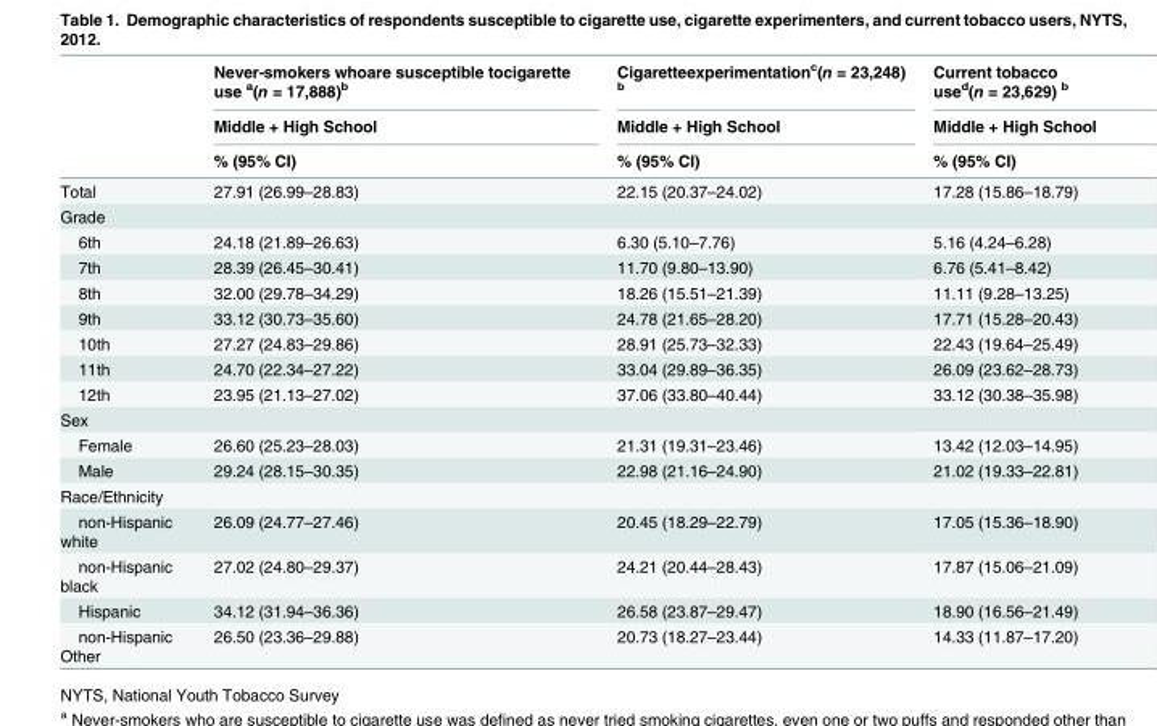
<table><thead><tr><td rowspan="3"></td><td rowspan="3">Never-smokers whoare susceptible tocigarette use <sup>a</sup>(n = 17,888)<sup>b</sup> Middle + High School % (95% CI)</td><td rowspan="3">Cigaretteexperimentation<sup>c</sup>(n = 23,248) <sup>b</sup> Middle + High School % (95% CI)</td><td rowspan="3">Current tobacco use<sup>d</sup>(n = 23,629) <sup>b</sup> Middle + High School % (95% CI)</td></tr><tr></tr><tr></tr></thead><tbody><tr><td>Total</td><td>27.91 (26.99–28.83)</td><td>22.15 (20.37–24.02)</td><td>17.28 (15.86–18.79)</td></tr><tr><td colspan="4">Grade</td></tr><tr><td>6th</td><td>24.18 (21.89–26.63)</td><td>6.30 (5.10–7.76)</td><td>5.16 (4.24–6.28)</td></tr><tr><td>7th</td><td>28.39 (26.45–30.41)</td><td>11.70 (9.80–13.90)</td><td>6.76 (5.41–8.42)</td></tr><tr><td>8th</td><td>32.00 (29.78–34.29)</td><td>18.26 (15.51–21.39)</td><td>11.11 (9.28–13.25)</td></tr><tr><td>9th</td><td>33.12 (30.73–35.60)</td><td>24.78 (21.65–28.20)</td><td>17.71 (15.28–20.43)</td></tr><tr><td>10th</td><td>27.27 (24.83–29.86)</td><td>28.91 (25.73–32.33)</td><td>22.43 (19.64–25.49)</td></tr><tr><td>11th</td><td>24.70 (22.34–27.22)</td><td>33.04 (29.89–36.35)</td><td>26.09 (23.62–28.73)</td></tr><tr><td>12th</td><td>23.95 (21.13–27.02)</td><td>37.06 (33.80–40.44)</td><td>33.12 (30.38–35.98)</td></tr><tr><td colspan="4">Sex</td></tr><tr><td>Female</td><td>26.60 (25.23–28.03)</td><td>21.31 (19.31–23.46)</td><td>13.42 (12.03–14.95)</td></tr><tr><td>Male</td><td>29.24 (28.15–30.35)</td><td>22.98 (21.16–24.90)</td><td>21.02 (19.33–22.81)</td></tr><tr><td colspan="4">Race/Ethnicity</td></tr><tr><td>non-Hispanic white</td><td>26.09 (24.77–27.46)</td><td>20.45 (18.29–22.79)</td><td>17.05 (15.36–18.90)</td></tr><tr><td>non-Hispanic black</td><td>27.02 (24.80–29.37)</td><td>24.21 (20.44–28.43)</td><td>17.87 (15.06–21.09)</td></tr><tr><td>Hispanic</td><td>34.12 (31.94–36.36)</td><td>26.58 (23.87–29.47)</td><td>18.90 (16.56–21.49)</td></tr><tr><td>non-Hispanic Other</td><td>26.50 (23.36–29.88)</td><td>20.73 (18.27–23.44)</td><td>14.33 (11.87–17.20)</td></tr></tbody></table>